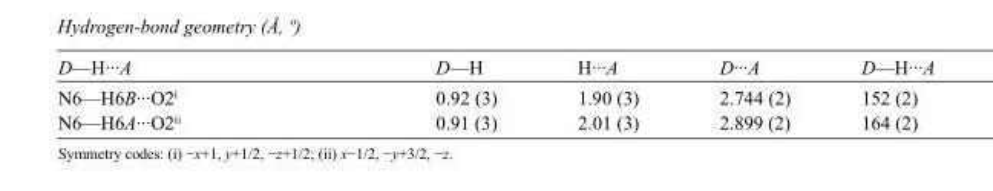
<table><tbody><tr><td>D—H···A</td><td>D—H</td><td>H···A</td><td>D···A</td><td>D—H···A</td></tr><tr><td>N6—H6B···O2<sup>i</sup></td><td>0.92 (3)</td><td>1.90 (3)</td><td>2.744 (2)</td><td>152 (2)</td></tr><tr><td>N6—H6A···O2<sup>ii</sup></td><td>0.91 (3)</td><td>2.01 (3)</td><td>2.899 (2)</td><td>164 (2)</td></tr></tbody></table>